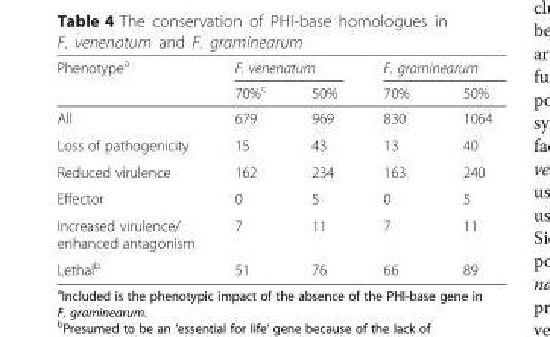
<table><thead><tr><td rowspan="2">Phenotype<sup>a</sup></td><td colspan="2">F. venenatum</td><td colspan="2">F. graminearum</td></tr><tr><td>70%<sup>c</sup></td><td>50%</td><td>70%</td><td>50%</td></tr></thead><tbody><tr><td>All</td><td>679</td><td>969</td><td>830</td><td>1064</td></tr><tr><td>Loss of pathogenicity</td><td>15</td><td>43</td><td>13</td><td>40</td></tr><tr><td>Reduced virulence</td><td>162</td><td>234</td><td>163</td><td>240</td></tr><tr><td>Effector</td><td>0</td><td>5</td><td>0</td><td>5</td></tr><tr><td>Increased virulence/ enhanced antagonism</td><td>7</td><td>11</td><td>7</td><td>11</td></tr><tr><td>Lethal<sup>b</sup></td><td>51</td><td>76</td><td>66</td><td>89</td></tr></tbody></table>